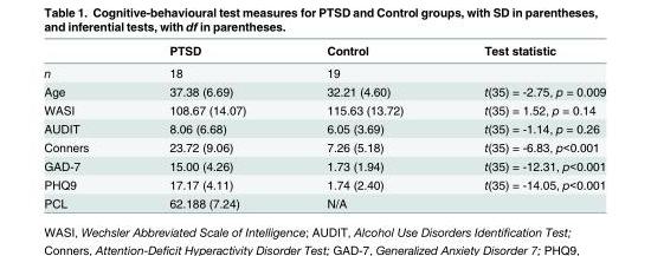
<table><thead><tr><td></td><td>PTSD</td><td>Control</td><td>Test statistic</td></tr></thead><tbody><tr><td>n</td><td>18</td><td>19</td><td></td></tr><tr><td>Age</td><td>37.38 (6.69)</td><td>32.21 (4.60)</td><td>t(35) = -2.75, p = 0.009</td></tr><tr><td>WASI</td><td>108.67 (14.07)</td><td>115.63 (13.72)</td><td>t(35) = 1.52, p = 0.14</td></tr><tr><td>AUDIT</td><td>8.06 (6.68)</td><td>6.05 (3.69)</td><td>t(35) = -1.14, p = 0.26</td></tr><tr><td>Conners</td><td>23.72 (9.06)</td><td>7.26 (5.18)</td><td>t(35) = -6.83, p&lt;0.001</td></tr><tr><td>GAD-7</td><td>15.00 (4.26)</td><td>1.73 (1.94)</td><td>t(35) = -12.31, p&lt;0.001</td></tr><tr><td>PHQ9</td><td>17.17 (4.11)</td><td>1.74 (2.40)</td><td>t(35) = -14.05, p&lt;0.001</td></tr><tr><td>PCL</td><td>62.188 (7.24)</td><td>N/A</td><td></td></tr></tbody></table>